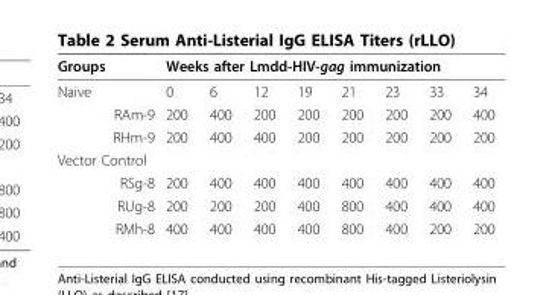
<table><thead><tr><td rowspan="2">Groups Naive</td><td colspan="8">Weeks after Lmdd-HIV-gag immunization</td></tr><tr><td>0</td><td>6</td><td>12</td><td>19</td><td>21</td><td>23</td><td>33</td><td>34</td></tr></thead><tbody><tr><td>RAm-9</td><td>200</td><td>400</td><td>200</td><td>200</td><td>200</td><td>200</td><td>200</td><td>400</td></tr><tr><td>RHm-9</td><td>200</td><td>400</td><td>400</td><td>200</td><td>200</td><td>200</td><td>200</td><td>200</td></tr><tr><td colspan="9">Vector Control</td></tr><tr><td>RSg-8</td><td>200</td><td>400</td><td>400</td><td>400</td><td>400</td><td>400</td><td>400</td><td>400</td></tr><tr><td>RUg-8</td><td>200</td><td>200</td><td>200</td><td>400</td><td>800</td><td>400</td><td>400</td><td>400</td></tr><tr><td>RMh-8</td><td>400</td><td>400</td><td>400</td><td>400</td><td>800</td><td>400</td><td>200</td><td>200</td></tr></tbody></table>